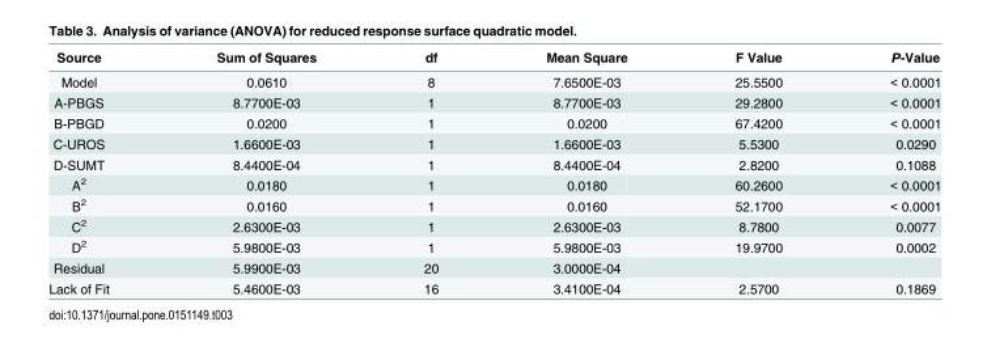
<table><thead><tr><td>Source</td><td>Sum of Squares</td><td>df</td><td>Mean Square</td><td>F Value</td><td>P-Value</td></tr></thead><tbody><tr><td>Model</td><td>0.0610</td><td>8</td><td>7.6500E-03</td><td>25.5500</td><td>&lt; 0.0001</td></tr><tr><td>A-PBGS</td><td>8.7700E-03</td><td>1</td><td>8.7700E-03</td><td>29.2800</td><td>&lt; 0.0001</td></tr><tr><td>B-PBGD</td><td>0.0200</td><td>1</td><td>0.0200</td><td>67.4200</td><td>&lt; 0.0001</td></tr><tr><td>C-UROS</td><td>1.6600E-03</td><td>1</td><td>1.6600E-03</td><td>5.5300</td><td>0.0290</td></tr><tr><td>D-SUMT</td><td>8.4400E-04</td><td>1</td><td>8.4400E-04</td><td>2.8200</td><td>0.1088</td></tr><tr><td>A<sup>2</sup></td><td>0.0180</td><td>1</td><td>0.0180</td><td>60.2600</td><td>&lt; 0.0001</td></tr><tr><td>B<sup>2</sup></td><td>0.0160</td><td>1</td><td>0.0160</td><td>52.1700</td><td>&lt; 0.0001</td></tr><tr><td>C<sup>2</sup></td><td>2.6300E-03</td><td>1</td><td>2.6300E-03</td><td>8.7800</td><td>0.0077</td></tr><tr><td>D<sup>2</sup></td><td>5.9800E-03</td><td>1</td><td>5.9800E-03</td><td>19.9700</td><td>0.0002</td></tr><tr><td>Residual</td><td>5.9900E-03</td><td>20</td><td>3.0000E-04</td><td></td><td></td></tr><tr><td>Lack of Fit</td><td>5.4600E-03</td><td>16</td><td>3.4100E-04</td><td>2.5700</td><td>0.1869</td></tr></tbody></table>